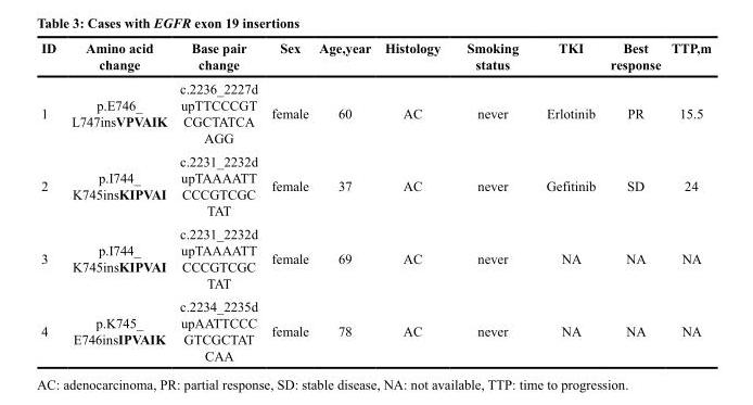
<table><thead><tr><td>ID</td><td>Amino acid change</td><td>Base pair change</td><td>Sex</td><td>Age,year</td><td>Histology</td><td>Smoking status</td><td>TKI</td><td>Best response</td><td>TTP,m</td></tr></thead><tbody><tr><td>1</td><td>p.E746_ L747insVPVAIK</td><td>c.2236_2227d upTTCCCGT CGCTATCA AGG</td><td>female</td><td>60</td><td>AC</td><td>never</td><td>Erlotinib</td><td>PR</td><td>15.5</td></tr><tr><td>2</td><td>p.I744_ K745insKIPVAI</td><td>c.2231_2232d upTAAAATT CCCGTCGC TAT</td><td>female</td><td>37</td><td>AC</td><td>never</td><td>Gefitinib</td><td>SD</td><td>24</td></tr><tr><td>3</td><td>p.I744_ K745insKIPVAI</td><td>c.2231_2232d upTAAAATT CCCGTCGC TAT</td><td>female</td><td>69</td><td>AC</td><td>never</td><td>NA</td><td>NA</td><td>NA</td></tr><tr><td>4</td><td>p.K745_ E746insIPVAIK</td><td>c.2234_2235d upAATTCCC GTCGCTAT CAA</td><td>female</td><td>78</td><td>AC</td><td>never</td><td>NA</td><td>NA</td><td>NA</td></tr></tbody></table>